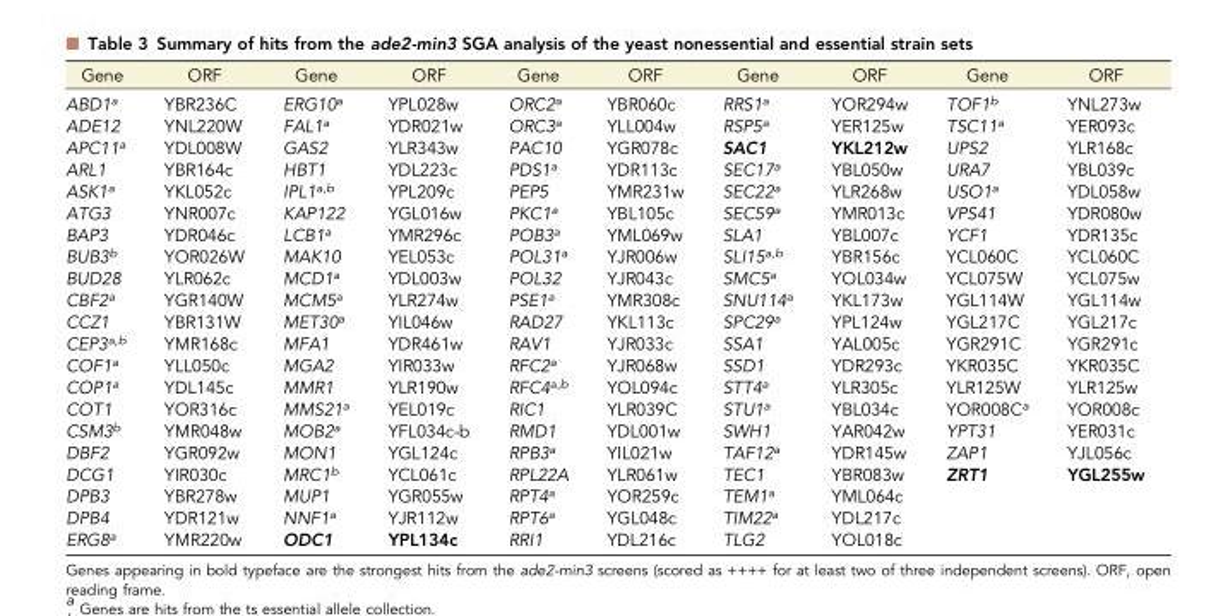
<table><thead><tr><td>Gene</td><td>ORF</td><td>Gene</td><td>ORF</td><td>Gene</td><td>ORF</td><td>Gene</td><td>ORF</td><td>Gene</td><td>ORF</td></tr></thead><tbody><tr><td>ABD1<sup>a</sup></td><td>YBR236C</td><td>ERG10<sup>a</sup></td><td>YPL028w</td><td>ORC2<sup>a</sup></td><td>YBR060c</td><td>RRS1<sup>a</sup></td><td>YOR294w</td><td>TOF1<sup>b</sup></td><td>YNL273w</td></tr><tr><td>ADE12</td><td>YNL220W</td><td>FAL1<sup>a</sup></td><td>YDR021w</td><td>ORC3<sup>a</sup></td><td>YLL004w</td><td>RSP5<sup>a</sup></td><td>YER125w</td><td>TSC11<sup>a</sup></td><td>YER093c</td></tr><tr><td>APC11<sup>a</sup></td><td>YDL008W</td><td>GAS2</td><td>YLR343w</td><td>PAC10</td><td>YGR078c</td><td>SAC1</td><td>YKL212w</td><td>UPS2</td><td>YLR168c</td></tr><tr><td>ARL1</td><td>YBR164c</td><td>HBT1</td><td>YDL223c</td><td>PDS1<sup>a</sup></td><td>YDR113c</td><td>SEC17<sup>a</sup></td><td>YBL050w</td><td>URA7</td><td>YBL039c</td></tr><tr><td>ASK1<sup>a</sup></td><td>YKL052c</td><td>IPL1<sup>a,b</sup></td><td>YPL209c</td><td>PEP5</td><td>YMR231w</td><td>SEC22<sup>a</sup></td><td>YLR268w</td><td>USO1<sup>a</sup></td><td>YDL058w</td></tr><tr><td>ATG3</td><td>YNR007c</td><td>KAP122</td><td>YGL016w</td><td>PKC1<sup>a</sup></td><td>YBL105c</td><td>SEC59<sup>a</sup></td><td>YMR013c</td><td>VPS41</td><td>YDR080w</td></tr><tr><td>BAP3</td><td>YDR046c</td><td>LCB1<sup>a</sup></td><td>YMR296c</td><td>POB3<sup>a</sup></td><td>YML069w</td><td>SLA1</td><td>YBL007c</td><td>YCF1</td><td>YDR135c</td></tr><tr><td>BUB3<sup>b</sup></td><td>YOR026W</td><td>MAK10</td><td>YEL053c</td><td>POL31<sup>a</sup></td><td>YJR006w</td><td>SLI15<sup>a,b</sup></td><td>YBR156c</td><td>YCL060C</td><td>YCL060C</td></tr><tr><td>BUD28</td><td>YLR062c</td><td>MCD1<sup>a</sup></td><td>YDL003w</td><td>POL32</td><td>YJR043c</td><td>SMC5<sup>a</sup></td><td>YOL034w</td><td>YCL075W</td><td>YCL075w</td></tr><tr><td>CBF2<sup>a</sup></td><td>YGR140W</td><td>MCM5<sup>a</sup></td><td>YLR274w</td><td>PSE1<sup>a</sup></td><td>YMR308c</td><td>SNU114<sup>a</sup></td><td>YKL173w</td><td>YGL114W</td><td>YGL114w</td></tr><tr><td>CCZ1</td><td>YBR131W</td><td>MET30<sup>a</sup></td><td>YIL046w</td><td>RAD27</td><td>YKL113c</td><td>SPC29<sup>a</sup></td><td>YPL124w</td><td>YGL217C</td><td>YGL217c</td></tr><tr><td>CEP3<sup>a,b</sup></td><td>YMR168c</td><td>MFA1</td><td>YDR461w</td><td>RAV1</td><td>YJR033c</td><td>SSA1</td><td>YAL005c</td><td>YGR291C</td><td>YGR291c</td></tr><tr><td>COF1<sup>a</sup></td><td>YLL050c</td><td>MGA2</td><td>YIR033w</td><td>RFC2<sup>a</sup></td><td>YJR068w</td><td>SSD1</td><td>YDR293c</td><td>YKR035C</td><td>YKR035C</td></tr><tr><td>COP1<sup>a</sup></td><td>YDL145c</td><td>MMR1</td><td>YLR190w</td><td>RFC4<sup>a,b</sup></td><td>YOL094c</td><td>STT4<sup>a</sup></td><td>YLR305c</td><td>YLR125W</td><td>YLR125w</td></tr><tr><td>COT1</td><td>YOR316c</td><td>MMS21<sup>a</sup></td><td>YEL019c</td><td>RIC1</td><td>YLR039C</td><td>STU1<sup>a</sup></td><td>YBL034c</td><td>YOR008C<sup>a</sup></td><td>YOR008c</td></tr><tr><td>CSM3<sup>b</sup></td><td>YMR048w</td><td>MOB2<sup>a</sup></td><td>YFL034c-b</td><td>RMD1</td><td>YDL001w</td><td>SWH1</td><td>YAR042w</td><td>YPT31</td><td>YER031c</td></tr><tr><td>DBF2</td><td>YGR092w</td><td>MON1</td><td>YGL124c</td><td>RPB3<sup>a</sup></td><td>YIL021w</td><td>TAF12<sup>a</sup></td><td>YDR145w</td><td>ZAP1</td><td>YJL056c</td></tr><tr><td>DCG1</td><td>YIR030c</td><td>MRC1<sup>b</sup></td><td>YCL061c</td><td>RPL22A</td><td>YLR061w</td><td>TEC1</td><td>YBR083w</td><td>ZRT1</td><td>YGL255w</td></tr><tr><td>DPB3</td><td>YBR278w</td><td>MUP1</td><td>YGR055w</td><td>RPT4<sup>a</sup></td><td>YOR259c</td><td>TEM1<sup>a</sup></td><td>YML064c</td><td></td><td></td></tr><tr><td>DPB4</td><td>YDR121w</td><td>NNF1<sup>a</sup></td><td>YJR112w</td><td>RPT6<sup>a</sup></td><td>YGL048c</td><td>TIM22<sup>a</sup></td><td>YDL217c</td><td></td><td></td></tr><tr><td>ERG8<sup>a</sup></td><td>YMR220w</td><td>ODC1</td><td>YPL134c</td><td>RRI1</td><td>YDL216c</td><td>TLG2</td><td>YOL018c</td><td></td><td></td></tr></tbody></table>